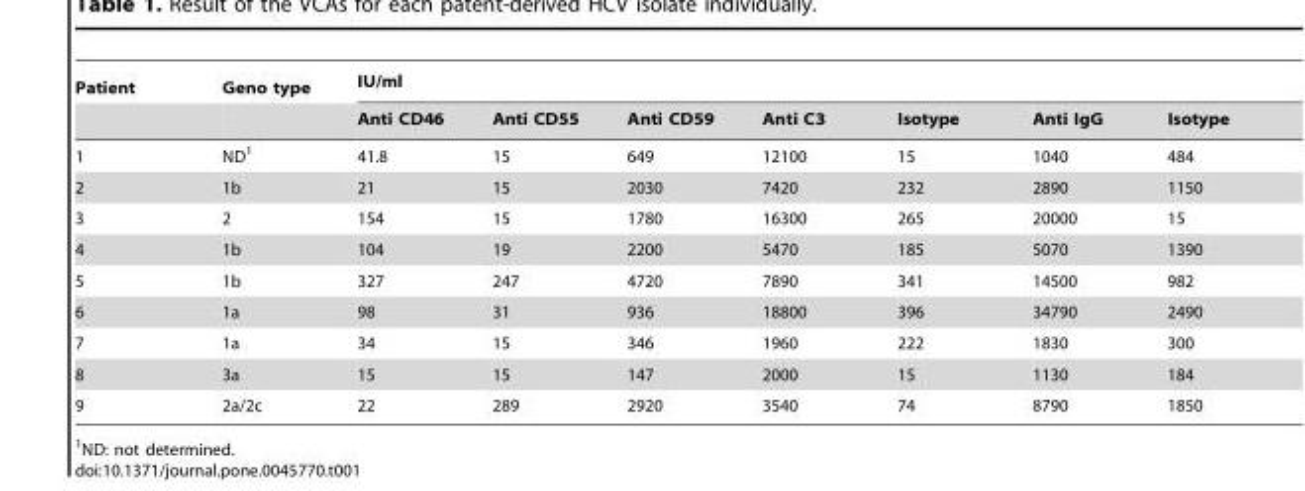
<table><thead><tr><td rowspan="2">Patient</td><td rowspan="2">Geno type</td><td colspan="7">IU/ml</td></tr><tr><td>Anti CD46</td><td>Anti CD55</td><td>Anti CD59</td><td>Anti C3</td><td>Isotype</td><td>Anti IgG</td><td>Isotype</td></tr></thead><tbody><tr><td>1</td><td>ND<sup>1</sup></td><td>41.8</td><td>15</td><td>649</td><td>12100</td><td>15</td><td>1040</td><td>484</td></tr><tr><td>2</td><td>1b</td><td>21</td><td>15</td><td>2030</td><td>7420</td><td>232</td><td>2890</td><td>1150</td></tr><tr><td>3</td><td>2</td><td>154</td><td>15</td><td>1780</td><td>16300</td><td>265</td><td>20000</td><td>15</td></tr><tr><td>4</td><td>1b</td><td>104</td><td>19</td><td>2200</td><td>5470</td><td>185</td><td>5070</td><td>1390</td></tr><tr><td>5</td><td>1b</td><td>327</td><td>247</td><td>4720</td><td>7890</td><td>341</td><td>14500</td><td>982</td></tr><tr><td>6</td><td>1a</td><td>98</td><td>31</td><td>936</td><td>18800</td><td>396</td><td>34790</td><td>2490</td></tr><tr><td>7</td><td>1a</td><td>34</td><td>15</td><td>346</td><td>1960</td><td>222</td><td>1830</td><td>300</td></tr><tr><td>8</td><td>3a</td><td>15</td><td>15</td><td>147</td><td>2000</td><td>15</td><td>1130</td><td>184</td></tr><tr><td>9</td><td>2a/2c</td><td>22</td><td>289</td><td>2920</td><td>3540</td><td>74</td><td>8790</td><td>1850</td></tr></tbody></table>